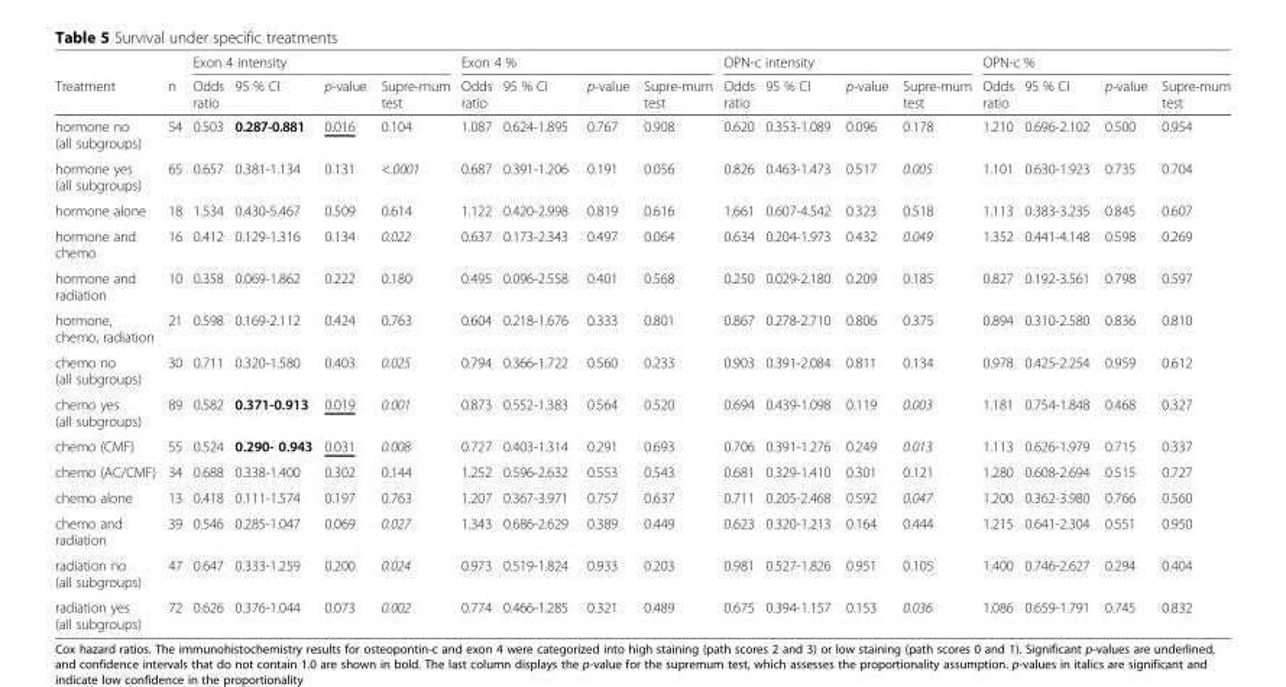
<table><thead><tr><td rowspan="2">Treatment</td><td rowspan="2">n</td><td colspan="4">Exon 4 intensity</td><td colspan="4">Exon 4 %</td><td colspan="4">OPN-c intensity</td><td colspan="4">OPN-c %</td></tr><tr><td>Odds ratio</td><td>95 % CI</td><td>p-value</td><td>Supre-mum test</td><td>Odds ratio</td><td>95 % CI</td><td>p-value</td><td>Supre-mum test</td><td>Odds ratio</td><td>95 % CI</td><td>p-value</td><td>Supre-mum test</td><td>Odds ratio</td><td>95 % CI</td><td>p-value</td><td>Supre-mum test</td></tr></thead><tbody><tr><td>hormone no (all subgroups)</td><td>54</td><td>0.503</td><td>0.287-0.881</td><td>0.016</td><td>0.104</td><td>1.087</td><td>0.624-1.895</td><td>0.767</td><td>0.908</td><td>0.620</td><td>0.353-1.089</td><td>0.096</td><td>0.178</td><td>1.210</td><td>0.696-2.102</td><td>0.500</td><td>0.954</td></tr><tr><td>hormone yes (all subgroups)</td><td>65</td><td>0.657</td><td>0.381-1.134</td><td>0.131</td><td>&lt;.0001</td><td>0.687</td><td>0.391-1.206</td><td>0.191</td><td>0.056</td><td>0.826</td><td>0.463-1.473</td><td>0.517</td><td>0.005</td><td>1.101</td><td>0.630-1.923</td><td>0.735</td><td>0.704</td></tr><tr><td>hormone alone</td><td>18</td><td>1.534</td><td>0.430-5.467</td><td>0.509</td><td>0.614</td><td>1.122</td><td>0.420-2.998</td><td>0.819</td><td>0.616</td><td>1.661</td><td>0.607-4.542</td><td>0.323</td><td>0.518</td><td>1.113</td><td>0.383-3.235</td><td>0.845</td><td>0.607</td></tr><tr><td>hormone and chemo</td><td>16</td><td>0.412</td><td>0.129-1.316</td><td>0.134</td><td>0.022</td><td>0.637</td><td>0.173-2.343</td><td>0.497</td><td>0.064</td><td>0.634</td><td>0.204-1.973</td><td>0.432</td><td>0.049</td><td>1.352</td><td>0.441-4.148</td><td>0.598</td><td>0.269</td></tr><tr><td>hormone and radiation</td><td>10</td><td>0.358</td><td>0.069-1.862</td><td>0.222</td><td>0.180</td><td>0.495</td><td>0.096-2.558</td><td>0.401</td><td>0.568</td><td>0.250</td><td>0.029-2.180</td><td>0.209</td><td>0.185</td><td>0.827</td><td>0.192-3.561</td><td>0.798</td><td>0.597</td></tr><tr><td>hormone, chemo, radiation</td><td>21</td><td>0.598</td><td>0.169-2.112</td><td>0.424</td><td>0.763</td><td>0.604</td><td>0.218-1.676</td><td>0.333</td><td>0.801</td><td>0.867</td><td>0.278-2.710</td><td>0.806</td><td>0.375</td><td>0.894</td><td>0.310-2.580</td><td>0.836</td><td>0.810</td></tr><tr><td>chemo no (all subgroups)</td><td>30</td><td>0.711</td><td>0.320-1.580</td><td>0.403</td><td>0.025</td><td>0.794</td><td>0.366-1.722</td><td>0.560</td><td>0.233</td><td>0.903</td><td>0.391-2.084</td><td>0.811</td><td>0.134</td><td>0.978</td><td>0.425-2.254</td><td>0.959</td><td>0.612</td></tr><tr><td>chemo yes (all subgroups)</td><td>89</td><td>0.582</td><td>0.371-0.913</td><td>0.019</td><td>0.001</td><td>0.873</td><td>0.552-1.383</td><td>0.564</td><td>0.520</td><td>0.694</td><td>0.439-1.098</td><td>0.119</td><td>0.003</td><td>1.181</td><td>0.754-1.848</td><td>0.468</td><td>0.327</td></tr><tr><td>chemo (CMF)</td><td>55</td><td>0.524</td><td>0.290- 0.943</td><td>0.031</td><td>0.008</td><td>0.727</td><td>0.403-1.314</td><td>0.291</td><td>0.693</td><td>0.706</td><td>0.391-1.276</td><td>0.249</td><td>0.013</td><td>1.113</td><td>0.626-1.979</td><td>0.715</td><td>0.337</td></tr><tr><td>chemo (AC/CMF)</td><td>34</td><td>0.688</td><td>0.338-1.400</td><td>0.302</td><td>0.144</td><td>1.252</td><td>0.596-2.632</td><td>0.553</td><td>0.543</td><td>0.681</td><td>0.329-1.410</td><td>0.301</td><td>0.121</td><td>1.280</td><td>0.608-2.694</td><td>0.515</td><td>0.727</td></tr><tr><td>chemo alone</td><td>13</td><td>0.418</td><td>0.111-1.574</td><td>0.197</td><td>0.763</td><td>1.207</td><td>0.367-3.971</td><td>0.757</td><td>0.637</td><td>0.711</td><td>0.205-2.468</td><td>0.592</td><td>0.047</td><td>1.200</td><td>0.362-3.980</td><td>0.766</td><td>0.560</td></tr><tr><td>chemo and radiation</td><td>39</td><td>0.546</td><td>0.285-1.047</td><td>0.069</td><td>0.027</td><td>1.343</td><td>0.686-2.629</td><td>0.389</td><td>0.449</td><td>0.623</td><td>0.320-1.213</td><td>0.164</td><td>0.444</td><td>1.215</td><td>0.641-2.304</td><td>0.551</td><td>0.950</td></tr><tr><td>radiation no (all subgroups)</td><td>47</td><td>0.647</td><td>0.333-1.259</td><td>0.200</td><td>0.024</td><td>0.973</td><td>0.519-1.824</td><td>0.933</td><td>0.203</td><td>0.981</td><td>0.527-1.826</td><td>0.951</td><td>0.105</td><td>1.400</td><td>0.746-2.627</td><td>0.294</td><td>0.404</td></tr><tr><td>radiation yes (all subgroups)</td><td>72</td><td>0.626</td><td>0.376-1.044</td><td>0.073</td><td>0.002</td><td>0.774</td><td>0.466-1.285</td><td>0.321</td><td>0.489</td><td>0.675</td><td>0.394-1.157</td><td>0.153</td><td>0.036</td><td>1.086</td><td>0.659-1.791</td><td>0.745</td><td>0.832</td></tr></tbody></table>